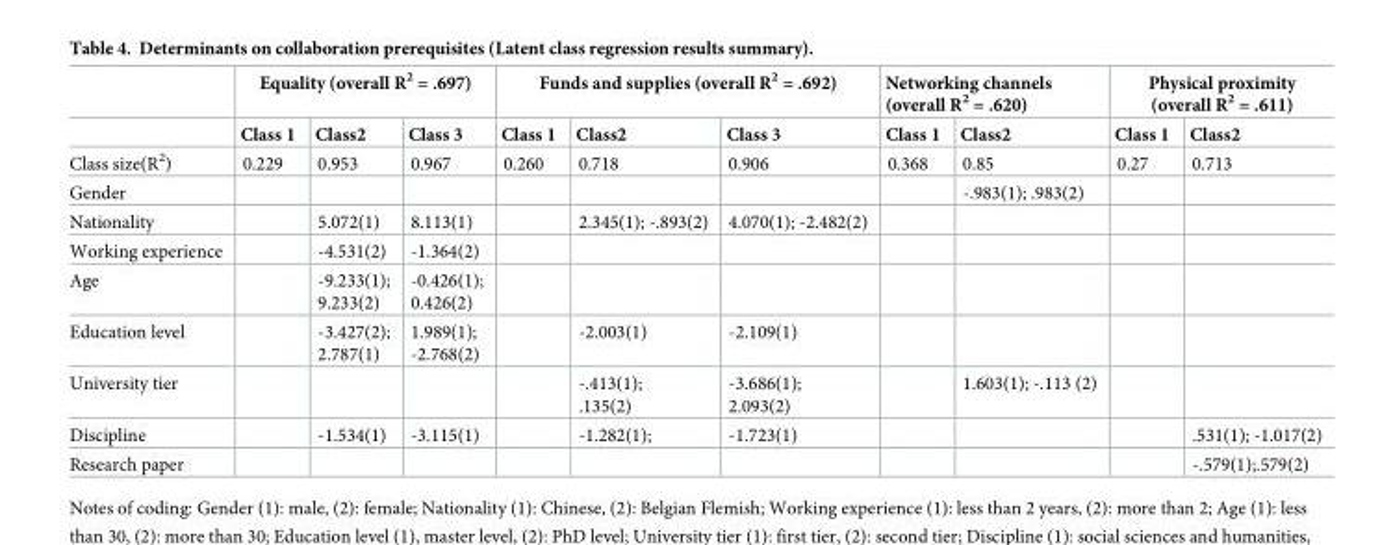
<table><thead><tr><td rowspan="2"></td><td colspan="3">Equality (overall R<sup>2</sup> = .697)</td><td colspan="3">Funds and supplies (overall R<sup>2</sup> = .692)</td><td colspan="2">Networking channels (overall R<sup>2</sup> = .620)</td><td colspan="2">Physical proximity (overall R<sup>2</sup> = .611)</td></tr><tr><td>Class 1</td><td>Class2</td><td>Class 3</td><td>Class 1</td><td>Class2</td><td>Class 3</td><td>Class 1</td><td>Class2</td><td>Class 1</td><td>Class2</td></tr></thead><tbody><tr><td>Class size(R<sup>2</sup>)</td><td>0.229</td><td>0.953</td><td>0.967</td><td>0.260</td><td>0.718</td><td>0.906</td><td>0.368</td><td>0.85</td><td>0.27</td><td>0.713</td></tr><tr><td>Gender</td><td></td><td></td><td></td><td></td><td></td><td></td><td></td><td>-.983(1); .983(2)</td><td></td><td></td></tr><tr><td>Nationality</td><td></td><td>5.072(1)</td><td>8.113(1)</td><td></td><td>2.345(1); -.893(2)</td><td>4.070(1); -2.482(2)</td><td></td><td></td><td></td><td></td></tr><tr><td>Working experience</td><td></td><td>-4.531(2)</td><td>-1.364(2)</td><td></td><td></td><td></td><td></td><td></td><td></td><td></td></tr><tr><td>Age</td><td></td><td>-9.233(1); 9.233(2)</td><td>-0.426(1); 0.426(2)</td><td></td><td></td><td></td><td></td><td></td><td></td><td></td></tr><tr><td>Education level</td><td></td><td>-3.427(2); 2.787(1)</td><td>1.989(1); -2.768(2)</td><td></td><td>-2.003(1)</td><td>-2.109(1)</td><td></td><td></td><td></td><td></td></tr><tr><td>University tier</td><td></td><td></td><td></td><td></td><td>-.413(1); .135(2)</td><td>-3.686(1); 2.093(2)</td><td></td><td>1.603(1); -.113 (2)</td><td></td><td></td></tr><tr><td>Discipline</td><td></td><td>-1.534(1)</td><td>-3.115(1)</td><td></td><td>-1.282(1);</td><td>-1.723(1)</td><td></td><td></td><td></td><td>.531(1); -1.017(2)</td></tr><tr><td>Research paper</td><td></td><td></td><td></td><td></td><td></td><td></td><td></td><td></td><td></td><td>-.579(1);.579(2)</td></tr></tbody></table>